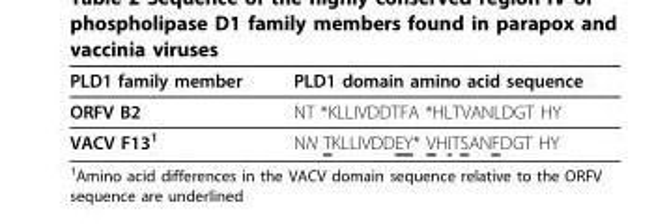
<table><thead><tr><td>PLD1 family member</td><td>PLD1 domain amino acid sequence</td></tr></thead><tbody><tr><td>ORFV B2</td><td>NT *KLLIVDDTFA *HLTVANLDGT HY</td></tr><tr><td>VACV F13<sup>1</sup></td><td>NN TKLLIVDDEY* VHITSANFDGT HY</td></tr></tbody></table>